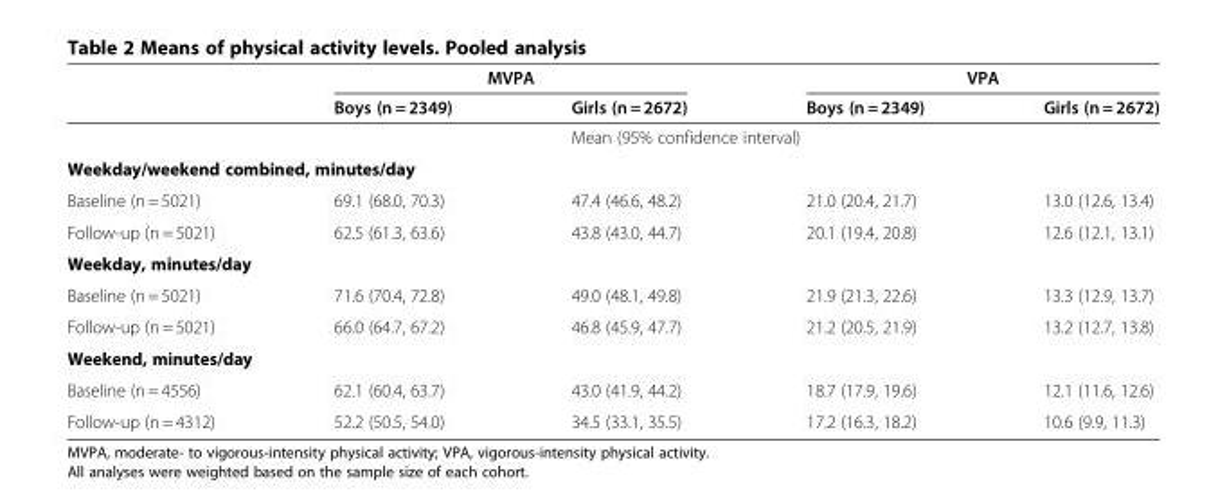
<table><thead><tr><td rowspan="2"></td><td colspan="2">MVPA</td><td colspan="2">VPA</td></tr><tr><td>Boys (n = 2349)</td><td>Girls (n = 2672)</td><td>Boys (n = 2349)</td><td>Girls (n = 2672)</td></tr></thead><tbody><tr><td></td><td></td><td colspan="2">Mean (95% confidence interval)</td><td></td></tr><tr><td colspan="5">Weekday/weekend combined, minutes/day</td></tr><tr><td>Baseline (n = 5021)</td><td>69.1 (68.0, 70.3)</td><td>47.4 (46.6, 48.2)</td><td>21.0 (20.4, 21.7)</td><td>13.0 (12.6, 13.4)</td></tr><tr><td>Follow-up (n = 5021)</td><td>62.5 (61.3, 63.6)</td><td>43.8 (43.0, 44.7)</td><td>20.1 (19.4, 20.8)</td><td>12.6 (12.1, 13.1)</td></tr><tr><td colspan="5">Weekday, minutes/day</td></tr><tr><td>Baseline (n = 5021)</td><td>71.6 (70.4, 72.8)</td><td>49.0 (48.1, 49.8)</td><td>21.9 (21.3, 22.6)</td><td>13.3 (12.9, 13.7)</td></tr><tr><td>Follow-up (n = 5021)</td><td>66.0 (64.7, 67.2)</td><td>46.8 (45.9, 47.7)</td><td>21.2 (20.5, 21.9)</td><td>13.2 (12.7, 13.8)</td></tr><tr><td colspan="5">Weekend, minutes/day</td></tr><tr><td>Baseline (n = 4556)</td><td>62.1 (60.4, 63.7)</td><td>43.0 (41.9, 44.2)</td><td>18.7 (17.9, 19.6)</td><td>12.1 (11.6, 12.6)</td></tr><tr><td>Follow-up (n = 4312)</td><td>52.2 (50.5, 54.0)</td><td>34.5 (33.1, 35.5)</td><td>17.2 (16.3, 18.2)</td><td>10.6 (9.9, 11.3)</td></tr></tbody></table>